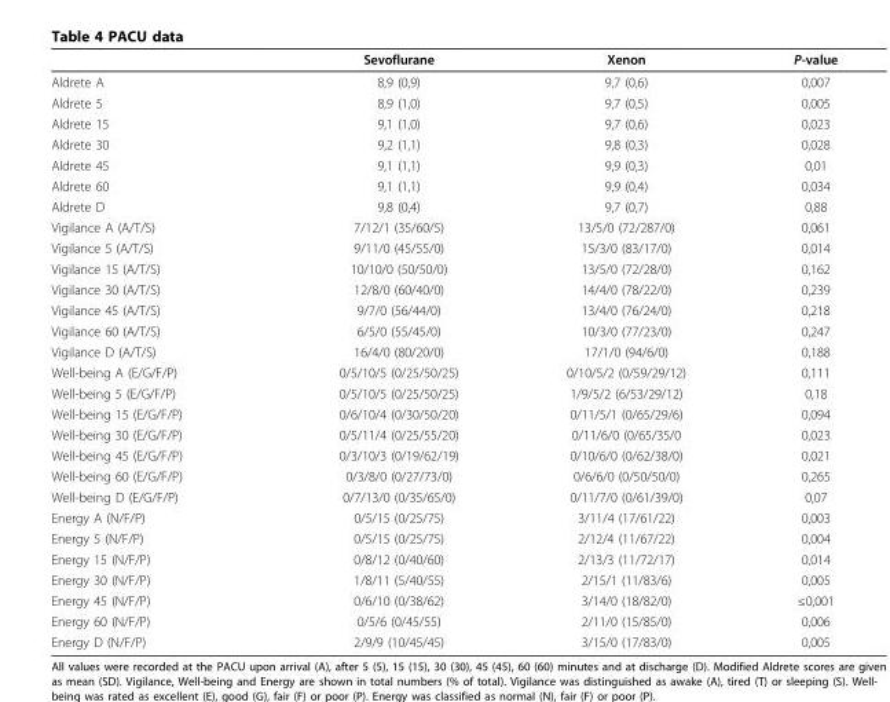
<table><thead><tr><td></td><td>Sevoflurane</td><td>Xenon</td><td>P-value</td></tr></thead><tbody><tr><td>Aldrete A</td><td>8,9 (0,9)</td><td>9,7 (0,6)</td><td>0,007</td></tr><tr><td>Aldrete 5</td><td>8,9 (1,0)</td><td>9,7 (0,5)</td><td>0,005</td></tr><tr><td>Aldrete 15</td><td>9,1 (1,0)</td><td>9,7 (0,6)</td><td>0,023</td></tr><tr><td>Aldrete 30</td><td>9,2 (1,1)</td><td>9,8 (0,3)</td><td>0,028</td></tr><tr><td>Aldrete 45</td><td>9,1 (1,1)</td><td>9,9 (0,3)</td><td>0,01</td></tr><tr><td>Aldrete 60</td><td>9,1 (1,1)</td><td>9,9 (0,4)</td><td>0,034</td></tr><tr><td>Aldrete D</td><td>9,8 (0,4)</td><td>9,7 (0,7)</td><td>0,88</td></tr><tr><td>Vigilance A (A/T/S)</td><td>7/12/1 (35/60/5)</td><td>13/5/0 (72/287/0)</td><td>0,061</td></tr><tr><td>Vigilance 5 (A/T/S)</td><td>9/11/0 (45/55/0)</td><td>15/3/0 (83/17/0)</td><td>0,014</td></tr><tr><td>Vigilance 15 (A/T/S)</td><td>10/10/0 (50/50/0)</td><td>13/5/0 (72/28/0)</td><td>0,162</td></tr><tr><td>Vigilance 30 (A/T/S)</td><td>12/8/0 (60/40/0)</td><td>14/4/0 (78/22/0)</td><td>0,239</td></tr><tr><td>Vigilance 45 (A/T/S)</td><td>9/7/0 (56/44/0)</td><td>13/4/0 (76/24/0)</td><td>0,218</td></tr><tr><td>Vigilance 60 (A/T/S)</td><td>6/5/0 (55/45/0)</td><td>10/3/0 (77/23/0)</td><td>0,247</td></tr><tr><td>Vigilance D (A/T/S)</td><td>16/4/0 (80/20/0)</td><td>17/1/0 (94/6/0)</td><td>0,188</td></tr><tr><td>Well-being A (E/G/F/P)</td><td>0/5/10/5 (0/25/50/25)</td><td>0/10/5/2 (0/59/29/12)</td><td>0,111</td></tr><tr><td>Well-being 5 (E/G/F/P)</td><td>0/5/10/5 (0/25/50/25)</td><td>1/9/5/2 (6/53/29/12)</td><td>0,18</td></tr><tr><td>Well-being 15 (E/G/F/P)</td><td>0/6/10/4 (0/30/50/20)</td><td>0/11/5/1 (0/65/29/6)</td><td>0,094</td></tr><tr><td>Well-being 30 (E/G/F/P)</td><td>0/5/11/4 (0/25/55/20)</td><td>0/11/6/0 (0/65/35/0</td><td>0,023</td></tr><tr><td>Well-being 45 (E/G/F/P)</td><td>0/3/10/3 (0/19/62/19)</td><td>0/10/6/0 (0/62/38/0)</td><td>0,021</td></tr><tr><td>Well-being 60 (E/G/F/P)</td><td>0/3/8/0 (0/27/73/0)</td><td>0/6/6/0 (0/50/50/0)</td><td>0,265</td></tr><tr><td>Well-being D (E/G/F/P)</td><td>0/7/13/0 (0/35/65/0)</td><td>0/11/7/0 (0/61/39/0)</td><td>0,07</td></tr><tr><td>Energy A (N/F/P)</td><td>0/5/15 (0/25/75)</td><td>3/11/4 (17/61/22)</td><td>0,003</td></tr><tr><td>Energy 5 (N/F/P)</td><td>0/5/15 (0/25/75)</td><td>2/12/4 (11/67/22)</td><td>0,004</td></tr><tr><td>Energy 15 (N/F/P)</td><td>0/8/12 (0/40/60)</td><td>2/13/3 (11/72/17)</td><td>0,014</td></tr><tr><td>Energy 30 (N/F/P)</td><td>1/8/11 (5/40/55)</td><td>2/15/1 (11/83/6)</td><td>0,005</td></tr><tr><td>Energy 45 (N/F/P)</td><td>0/6/10 (0/38/62)</td><td>3/14/0 (18/82/0)</td><td>≤0,001</td></tr><tr><td>Energy 60 (N/F/P)</td><td>0/5/6 (0/45/55)</td><td>2/11/0 (15/85/0)</td><td>0,006</td></tr><tr><td>Energy D (N/F/P)</td><td>2/9/9 (10/45/45)</td><td>3/15/0 (17/83/0)</td><td>0,005</td></tr></tbody></table>